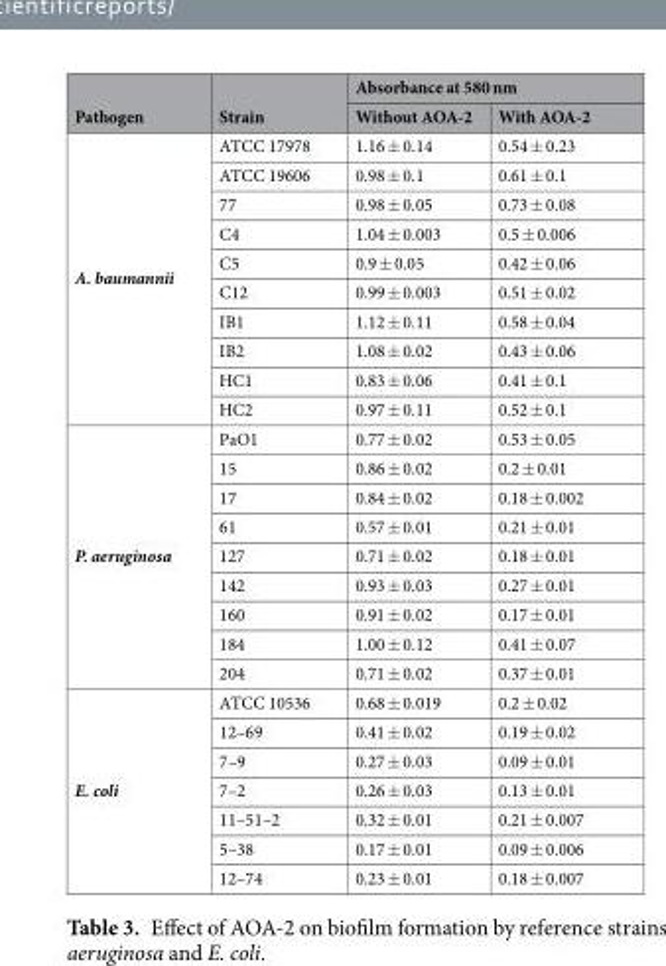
<table><thead><tr><td rowspan="2">Pathogen</td><td rowspan="2">Strain</td><td colspan="2">Absorbance at 580 nm</td></tr><tr><td>Without AOA-2</td><td>With AOA-2</td></tr></thead><tbody><tr><td rowspan="10">A. baumannii</td><td>ATCC 17978</td><td>1.16 ± 0.14</td><td>0.54 ± 0.23</td></tr><tr><td>ATCC 19606</td><td>0.98 ± 0.1</td><td>0.61 ± 0.1</td></tr><tr><td>77</td><td>0.98 ± 0.05</td><td>0.73 ± 0.08</td></tr><tr><td>C4</td><td>1.04 ± 0.003</td><td>0.5 ± 0.006</td></tr><tr><td>C5</td><td>0.9 ± 0.05</td><td>0.42 ± 0.06</td></tr><tr><td>C12</td><td>0.99 ± 0.003</td><td>0.51 ± 0.02</td></tr><tr><td>IB1</td><td>1.12 ± 0.11</td><td>0.58 ± 0.04</td></tr><tr><td>IB2</td><td>1.08 ± 0.02</td><td>0.43 ± 0.06</td></tr><tr><td>HC1</td><td>0.83 ± 0.06</td><td>0.41 ± 0.1</td></tr><tr><td>HC2</td><td>0.97 ± 0.11</td><td>0.52 ± 0.1</td></tr><tr><td rowspan="9">P. aeruginosa</td><td>PaO1</td><td>0.77 ± 0.02</td><td>0.53 ± 0.05</td></tr><tr><td>15</td><td>0.86 ± 0.02</td><td>0.2 ± 0.01</td></tr><tr><td>17</td><td>0.84 ± 0.02</td><td>0.18 ± 0.002</td></tr><tr><td>61</td><td>0.57 ± 0.01</td><td>0.21 ± 0.01</td></tr><tr><td>127</td><td>0.71 ± 0.02</td><td>0.18 ± 0.01</td></tr><tr><td>142</td><td>0.93 ± 0.03</td><td>0.27 ± 0.01</td></tr><tr><td>160</td><td>0.91 ± 0.02</td><td>0.17 ± 0.01</td></tr><tr><td>184</td><td>1.00 ± 0.12</td><td>0.41 ± 0.07</td></tr><tr><td>204</td><td>0.71 ± 0.02</td><td>0.37 ± 0.01</td></tr><tr><td rowspan="7">E. coli</td><td>ATCC 10536</td><td>0.68 ± 0.019</td><td>0.2 ± 0.02</td></tr><tr><td>12–69</td><td>0.41 ± 0.02</td><td>0.19 ± 0.02</td></tr><tr><td>7–9</td><td>0.27 ± 0.03</td><td>0.09 ± 0.01</td></tr><tr><td>7–2</td><td>0.26 ± 0.03</td><td>0.13 ± 0.01</td></tr><tr><td>11–51–2</td><td>0.32 ± 0.01</td><td>0.21 ± 0.007</td></tr><tr><td>5–38</td><td>0.17 ± 0.01</td><td>0.09 ± 0.006</td></tr><tr><td>12–74</td><td>0.23 ± 0.01</td><td>0.18 ± 0.007</td></tr></tbody></table>